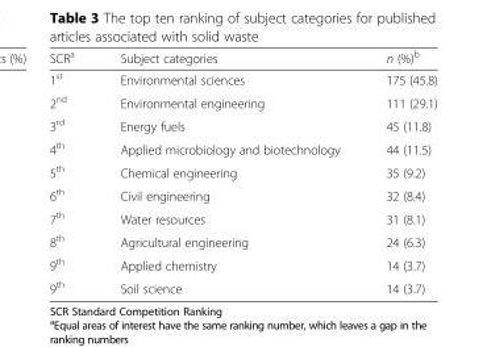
<table><thead><tr><td>SCR<sup>a</sup></td><td>Subject categories</td><td>n (%)<sup>b</sup></td></tr></thead><tbody><tr><td>1<sup>st</sup></td><td>Environmental sciences</td><td>175 (45.8)</td></tr><tr><td>2<sup>nd</sup></td><td>Environmental engineering</td><td>111 (29.1)</td></tr><tr><td>3<sup>rd</sup></td><td>Energy fuels</td><td>45 (11.8)</td></tr><tr><td>4<sup>th</sup></td><td>Applied microbiology and biotechnology</td><td>44 (11.5)</td></tr><tr><td>5<sup>th</sup></td><td>Chemical engineering</td><td>35 (9.2)</td></tr><tr><td>6<sup>th</sup></td><td>Civil engineering</td><td>32 (8.4)</td></tr><tr><td>7<sup>th</sup></td><td>Water resources</td><td>31 (8.1)</td></tr><tr><td>8<sup>th</sup></td><td>Agricultural engineering</td><td>24 (6.3)</td></tr><tr><td>9<sup>th</sup></td><td>Applied chemistry</td><td>14 (3.7)</td></tr><tr><td>9<sup>th</sup></td><td>Soil science</td><td>14 (3.7)</td></tr></tbody></table>